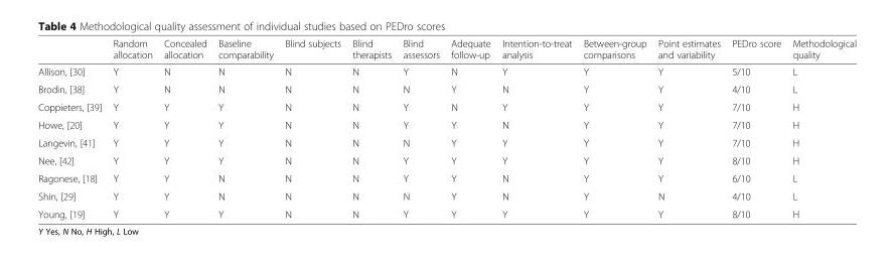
<table><thead><tr><td></td><td>Random allocation</td><td>Concealed allocation</td><td>Baseline comparability</td><td>Blind subjects</td><td>Blind therapists</td><td>Blind assessors</td><td>Adequate follow-up</td><td>Intention-to-treat analysis</td><td>Between-group comparisons</td><td>Point estimates and variability</td><td>PEDro score</td><td>Methodological quality</td></tr></thead><tbody><tr><td>Allison, [30]</td><td>Y</td><td>N</td><td>N</td><td>N</td><td>N</td><td>Y</td><td>N</td><td>Y</td><td>Y</td><td>Y</td><td>5/10</td><td>L</td></tr><tr><td>Brodin, [38]</td><td>Y</td><td>N</td><td>N</td><td>N</td><td>N</td><td>N</td><td>Y</td><td>N</td><td>Y</td><td>Y</td><td>4/10</td><td>L</td></tr><tr><td>Coppieters, [39]</td><td>Y</td><td>Y</td><td>Y</td><td>N</td><td>N</td><td>Y</td><td>N</td><td>Y</td><td>Y</td><td>Y</td><td>7/10</td><td>H</td></tr><tr><td>Howe, [20]</td><td>Y</td><td>Y</td><td>Y</td><td>N</td><td>N</td><td>Y</td><td>Y</td><td>N</td><td>Y</td><td>Y</td><td>7/10</td><td>H</td></tr><tr><td>Langevin, [41]</td><td>Y</td><td>Y</td><td>Y</td><td>N</td><td>N</td><td>N</td><td>Y</td><td>Y</td><td>Y</td><td>Y</td><td>7/10</td><td>H</td></tr><tr><td>Nee, [42]</td><td>Y</td><td>Y</td><td>Y</td><td>N</td><td>N</td><td>Y</td><td>Y</td><td>Y</td><td>Y</td><td>Y</td><td>8/10</td><td>H</td></tr><tr><td>Ragonese, [18]</td><td>Y</td><td>Y</td><td>N</td><td>N</td><td>N</td><td>Y</td><td>Y</td><td>N</td><td>Y</td><td>Y</td><td>6/10</td><td>L</td></tr><tr><td>Shin, [29]</td><td>Y</td><td>Y</td><td>N</td><td>N</td><td>N</td><td>N</td><td>Y</td><td>N</td><td>Y</td><td>N</td><td>4/10</td><td>L</td></tr><tr><td>Young, [19]</td><td>Y</td><td>Y</td><td>Y</td><td>N</td><td>N</td><td>Y</td><td>Y</td><td>Y</td><td>Y</td><td>Y</td><td>8/10</td><td>H</td></tr></tbody></table>